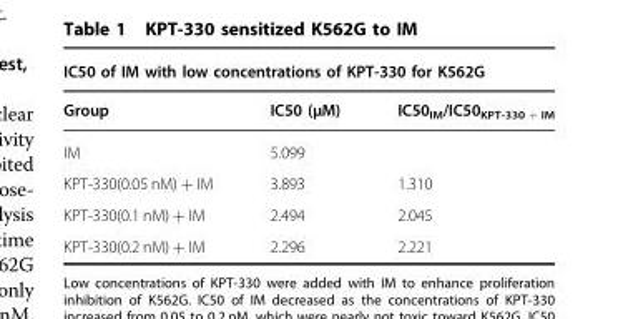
<table><thead><tr><td colspan="3">IC50 of IM with low concentrations of KPT-330 for K562G</td></tr><tr><td>Group</td><td>IC50 (μM)</td><td>IC50<sub>IM</sub>/IC50<sub>KPT-330 + IM</sub></td></tr></thead><tbody><tr><td>IM</td><td>5.099</td><td></td></tr><tr><td>KPT-330(0.05 nM) + IM</td><td>3.893</td><td>1.310</td></tr><tr><td>KPT-330(0.1 nM) + IM</td><td>2.494</td><td>2.045</td></tr><tr><td>KPT-330(0.2 nM) + IM</td><td>2.296</td><td>2.221</td></tr></tbody></table>